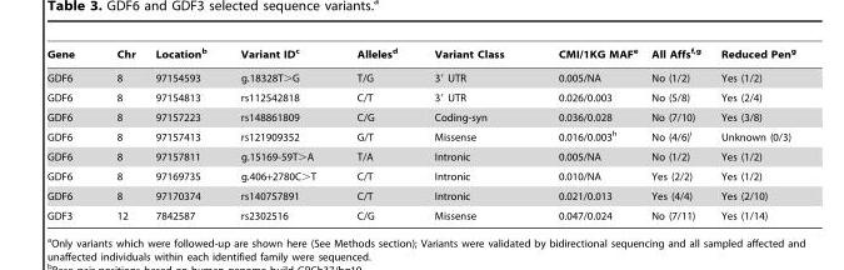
<table><thead><tr><td>Gene</td><td>Chr</td><td>Location<sup>b</sup></td><td>Variant ID<sup>c</sup></td><td>Alleles<sup>d</sup></td><td>Variant Class</td><td>CMI/1KG MAF<sup>e</sup></td><td>All Affsf,g</td><td>Reduced Pen<sup>g</sup></td></tr></thead><tbody><tr><td>GDF6</td><td>8</td><td>97154593</td><td>g.18328T&gt;G</td><td>T/G</td><td>3′ UTR</td><td>0.005/NA</td><td>No (1/2)</td><td>Yes (1/2)</td></tr><tr><td>GDF6</td><td>8</td><td>97154813</td><td>rs112542818</td><td>C/T</td><td>3′ UTR</td><td>0.026/0.003</td><td>No (5/8)</td><td>Yes (2/4)</td></tr><tr><td>GDF6</td><td>8</td><td>97157223</td><td>rs148861809</td><td>C/G</td><td>Coding-syn</td><td>0.036/0.028</td><td>No (7/10)</td><td>Yes (3/8)</td></tr><tr><td>GDF6</td><td>8</td><td>97157413</td><td>rs121909352</td><td>G/T</td><td>Missense</td><td>0.016/0.003<sup>h</sup></td><td>No (4/6)<sup>i</sup></td><td>Unknown (0/3)</td></tr><tr><td>GDF6</td><td>8</td><td>97157811</td><td>g.15169-59T&gt;A</td><td>T/A</td><td>Intronic</td><td>0.005/NA</td><td>No (1/2)</td><td>Yes (1/2)</td></tr><tr><td>GDF6</td><td>8</td><td>97169735</td><td>g.406+2780C&gt;T</td><td>C/T</td><td>Intronic</td><td>0.010/NA</td><td>Yes (2/2)</td><td>Yes (1/2)</td></tr><tr><td>GDF6</td><td>8</td><td>97170374</td><td>rs140757891</td><td>C/T</td><td>Intronic</td><td>0.021/0.013</td><td>Yes (4/4)</td><td>Yes (2/10)</td></tr><tr><td>GDF3</td><td>12</td><td>7842587</td><td>rs2302516</td><td>C/G</td><td>Missense</td><td>0.047/0.024</td><td>No (7/11)</td><td>Yes (1/14)</td></tr></tbody></table>